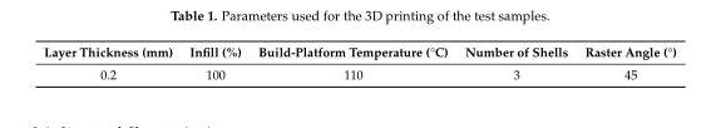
<table><thead><tr><td>Layer Thickness (mm)</td><td>Infill (%)</td><td>Build-Platform Temperature (°C)</td><td>Number of Shells</td><td>Raster Angle (°)</td></tr></thead><tbody><tr><td>0.2</td><td>100</td><td>110</td><td>3</td><td>45</td></tr></tbody></table>